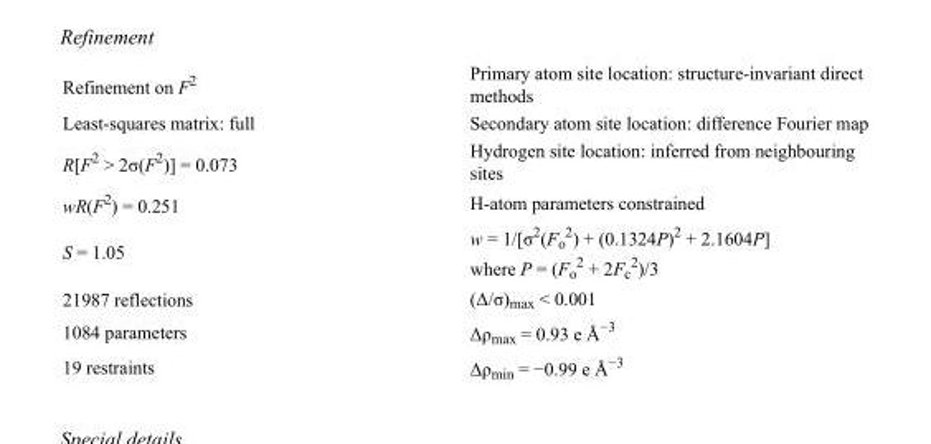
<table><tbody><tr><td>Refinement on F<sup>2</sup></td><td>Primary atom site location: structure-invariant direct methods</td></tr><tr><td>Least-squares matrix: full</td><td>Secondary atom site location: difference Fourier map</td></tr><tr><td>R[F<sup>2</sup> &gt; 2σ(F<sup>2</sup>)] = 0.073</td><td>Hydrogen site location: inferred from neighbouring sites</td></tr><tr><td>wR(F<sup>2</sup>) = 0.251</td><td>H-atom parameters constrained</td></tr><tr><td>S = 1.05</td><td>w = 1/[σ<sup>2</sup>(F<sub>o</sub> <sup>2</sup>) + (0.1324P)<sup>2</sup> + 2.1604P] where P = (F<sub>o</sub> <sup>2</sup> + 2F<sub>c</sub> <sup>2</sup>)/3</td></tr><tr><td>21987 reflections</td><td>(Δ/σ)<sub>max</sub> &lt; 0.001</td></tr><tr><td>1084 parameters</td><td>Δρ<sub>max</sub> = 0.93 e Å<sup>−3</sup></td></tr><tr><td>19 restraints</td><td>Δρ<sub>min</sub> = −0.99 e Å<sup>−3</sup></td></tr></tbody></table>